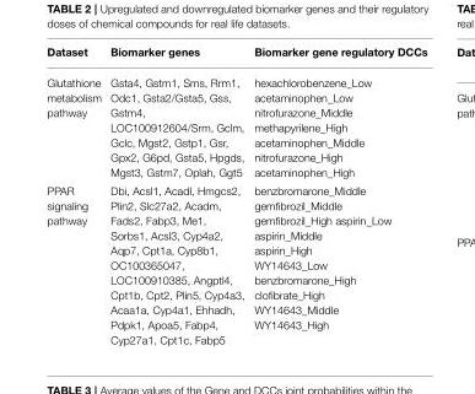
<table><thead><tr><td>Dataset</td><td>Biomarker genes</td><td>Biomarker gene regulatory DCCs</td></tr></thead><tbody><tr><td>Glutathione metabolism pathway</td><td>Gsta4, Gstm1, Sms, Rrm1, Odc1, Gsta2/Gsta5, Gss, Gstm4, LOC100912604/Srm, Gclm, Gclc, Mgst2, Gstp1, Gsr, Gpx2, G6pd, Gsta5, Hpgds, Mgst3, Gstm7, Oplah, Ggt5</td><td>hexachlorobenzene_Low acetaminophen_Low nitrofurazone_Middle methapyrilene_High acetaminophen_Middle nitrofurazone_High acetaminophen_High</td></tr><tr><td>PPAR signaling pathway</td><td>Dbi, Acsl1, Acadl, Hmgcs2, Plin2, Slc27a2, Acadm, Fads2, Fabp3, Me1, Sorbs1, Acsl3, Cyp4a2, Aqp7, Cpt1a, Cyp8b1, OC100365047, LOC100910385, Angptl4, Cpt1b, Cpt2, Plin5, Cyp4a3, Acaa1a, Cyp4a1, Ehhadh, Pdpk1, Apoa5, Fabp4, Cyp27a1, Cpt1c, Fabp5</td><td>benzbromarone_Middle gemfibrozil_Middle gemfibrozil_High aspirin_Low aspirin_Middle aspirin_High WY14643_Low benzbromarone_High clofibrate_High WY14643_Middle WY14643_High</td></tr></tbody></table>